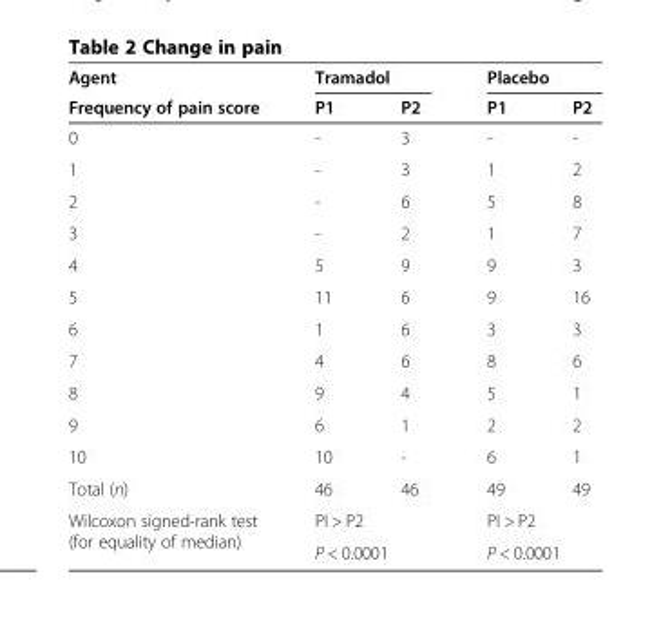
<table><thead><tr><td rowspan="2">Agent Frequency of pain score</td><td colspan="2">Tramadol</td><td colspan="2">Placebo</td></tr><tr><td>P1</td><td>P2</td><td>P1</td><td>P2</td></tr></thead><tbody><tr><td>0</td><td>-</td><td>3</td><td>-</td><td>-</td></tr><tr><td>1</td><td>-</td><td>3</td><td>1</td><td>2</td></tr><tr><td>2</td><td>-</td><td>6</td><td>5</td><td>8</td></tr><tr><td>3</td><td>-</td><td>2</td><td>1</td><td>7</td></tr><tr><td>4</td><td>5</td><td>9</td><td>9</td><td>3</td></tr><tr><td>5</td><td>11</td><td>6</td><td>9</td><td>16</td></tr><tr><td>6</td><td>1</td><td>6</td><td>3</td><td>3</td></tr><tr><td>7</td><td>4</td><td>6</td><td>8</td><td>6</td></tr><tr><td>8</td><td>9</td><td>4</td><td>5</td><td>1</td></tr><tr><td>9</td><td>6</td><td>1</td><td>2</td><td>2</td></tr><tr><td>10</td><td>10</td><td>-</td><td>6</td><td>1</td></tr><tr><td>Total (n)</td><td>46</td><td>46</td><td>49</td><td>49</td></tr><tr><td rowspan="2">Wilcoxon signed-rank test (for equality of median)</td><td colspan="2">PI &gt; P2</td><td colspan="2">PI &gt; P2</td></tr><tr><td colspan="2">P &lt; 0.0001</td><td colspan="2">P &lt; 0.0001</td></tr></tbody></table>